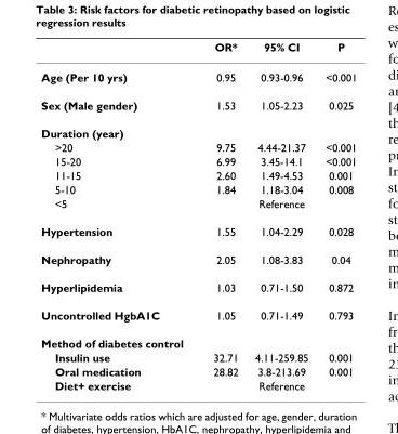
<table><thead><tr><td></td><td>OR*</td><td>95% CI</td><td>P</td></tr></thead><tbody><tr><td>Age (Per 10 yrs)</td><td>0.95</td><td>0.93-0.96</td><td>&lt;0.001</td></tr><tr><td>Sex (Male gender)</td><td>1.53</td><td>1.05-2.23</td><td>0.025</td></tr><tr><td colspan="4">Duration (year)</td></tr><tr><td>&gt;20</td><td>9.75</td><td>4.44-21.37</td><td>&lt;0.001</td></tr><tr><td>15-20</td><td>6.99</td><td>3.45-14.1</td><td>&lt;0.001</td></tr><tr><td>11-15</td><td>2.60</td><td>1.49-4.53</td><td>0.001</td></tr><tr><td>5-10</td><td>1.84</td><td>1.18-3.04</td><td>0.008</td></tr><tr><td>&lt;5</td><td></td><td>Reference</td><td></td></tr><tr><td>Hypertension</td><td>1.55</td><td>1.04-2.29</td><td>0.028</td></tr><tr><td>Nephropathy</td><td>2.05</td><td>1.08-3.83</td><td>0.04</td></tr><tr><td>Hyperlipidemia</td><td>1.03</td><td>0.71-1.50</td><td>0.872</td></tr><tr><td>Uncontrolled HgbA1C</td><td>1.05</td><td>0.71-1.49</td><td>0.793</td></tr><tr><td colspan="4">Method of diabetes control</td></tr><tr><td>Insulin use</td><td>32.71</td><td>4.11-259.85</td><td>0.001</td></tr><tr><td>Oral medication</td><td>28.82</td><td>3.8-213.69</td><td>0.001</td></tr><tr><td>Diet+ exercise</td><td></td><td>Reference</td><td></td></tr></tbody></table>